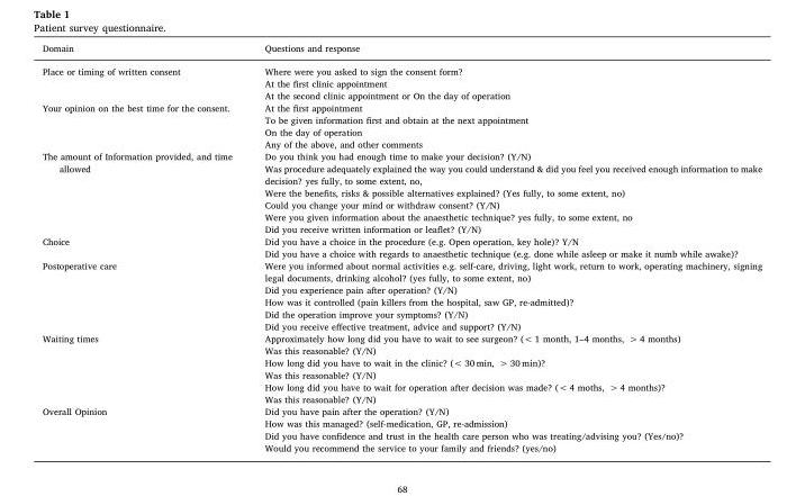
<table><thead><tr><td>Domain</td><td>Questions and response</td></tr></thead><tbody><tr><td rowspan="3">Place or timing of written consent</td><td>Where were you asked to sign the consent form?</td></tr><tr><td>At the first clinic appointment</td></tr><tr><td>At the second clinic appointment or On the day of operation</td></tr><tr><td rowspan="4">Your opinion on the best time for the consent.</td><td>At the first appointment</td></tr><tr><td>To be given information first and obtain at the next appointment</td></tr><tr><td>On the day of operation</td></tr><tr><td>Any of the above, and other comments</td></tr><tr><td rowspan="6">The amount of Information provided, and time allowed</td><td>Do you think you had enough time to make your decision? (Y/N)</td></tr><tr><td>Was procedure adequately explained the way you could understand &amp; did you feel you received enough information to make decision? yes fully, to some extent, no,</td></tr><tr><td>Were the benefits, risks &amp; possible alternatives explained? (Yes fully, to some extent, no)</td></tr><tr><td>Could you change your mind or withdraw consent? (Y/N)</td></tr><tr><td>Were you given information about the anaesthetic technique? yes fully, to some extent, no</td></tr><tr><td>Did you receive written information or leaflet? (Y/N)</td></tr><tr><td rowspan="2">Choice</td><td>Did you have a choice in the procedure (e.g. Open operation, key hole)? Y/N</td></tr><tr><td>Did you have a choice with regards to anaesthetic technique (e.g. done while asleep or make it numb while awake)?</td></tr><tr><td rowspan="5">Postoperative care</td><td>Were you informed about normal activities e.g. self-care, driving, light work, return to work, operating machinery, signing legal documents, drinking alcohol? (yes fully, to some extent, no)</td></tr><tr><td>Did you experience pain after operation? (Y/N)</td></tr><tr><td>How was it controlled (pain killers from the hospital, saw GP, re-admitted)?</td></tr><tr><td>Did the operation improve your symptoms? (Y/N)</td></tr><tr><td>Did you receive effective treatment, advice and support? (Y/N)</td></tr><tr><td rowspan="6">Waiting times</td><td>Approximately how long did you have to wait to see surgeon? (&lt; 1 month, 1–4 months, &gt; 4 months)</td></tr><tr><td>Was this reasonable? (Y/N)</td></tr><tr><td>How long did you have to wait in the clinic? (&lt; 30 min, &gt; 30 min)?</td></tr><tr><td>Was this reasonable? (Y/N)</td></tr><tr><td>How long did you have to wait for operation after decision was made? (&lt; 4 moths, &gt; 4 months)?</td></tr><tr><td>Was this reasonable? (Y/N)</td></tr><tr><td rowspan="4">Overall Opinion</td><td>Did you have pain after the operation? (Y/N)</td></tr><tr><td>How was this managed? (self-medication, GP, re-admission)</td></tr><tr><td>Did you have confidence and trust in the health care person who was treating/advising you? (Yes/no)?</td></tr><tr><td>Would you recommend the service to your family and friends? (yes/no)</td></tr></tbody></table>